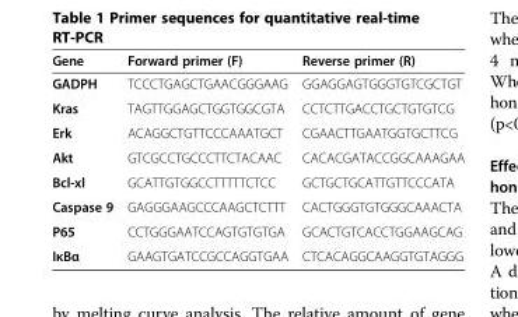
<table><thead><tr><td>Gene</td><td>Forward primer (F)</td><td>Reverse primer (R)</td></tr></thead><tbody><tr><td>GADPH</td><td>TCCCTGAGCTGAACGGGAAG</td><td>GGAGGAGTGGGTGTCGCTGT</td></tr><tr><td>Kras</td><td>TAGTTGGAGCTGGTGGCGTA</td><td>CCTCTTGACCTGCTGTGTCG</td></tr><tr><td>Erk</td><td>ACAGGCTGTTCCCAAATGCT</td><td>CGAACTTGAATGGTGCTTCG</td></tr><tr><td>Akt</td><td>GTCGCCTGCCCTTCTACAAC</td><td>CACACGATACCGGCAAAGAA</td></tr><tr><td>Bcl-xl</td><td>GCATTGTGGCCTTTTTCTCC</td><td>GCTGCTGCATTGTTCCCATA</td></tr><tr><td>Caspase 9</td><td>GAGGGAAGCCCAAGCTCTTT</td><td>CACTGGGTGTGGGCAAACTA</td></tr><tr><td>P65</td><td>CCTGGGAATCCAGTGTGTGA</td><td>GCACTGTCACCTGGAAGCAG</td></tr><tr><td>IκBα</td><td>GAAGTGATCCGCCAGGTGAA</td><td>CTCACAGGCAAGGTGTAGGG</td></tr></tbody></table>